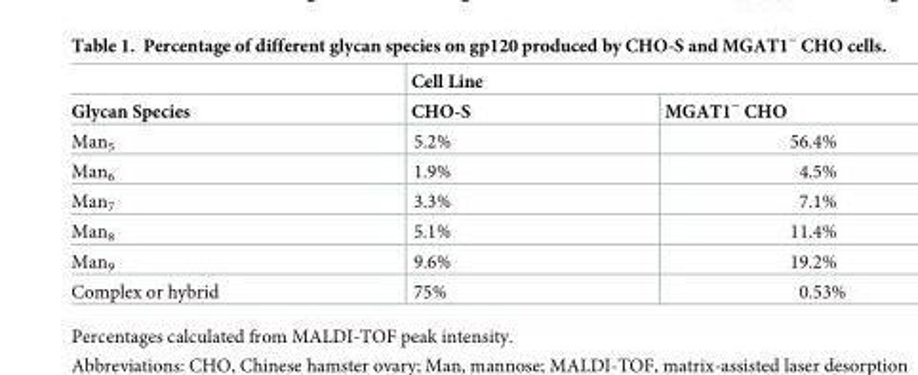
<table><thead><tr><td rowspan="2">Glycan Species</td><td colspan="2">Cell Line</td></tr><tr><td>CHO-S</td><td>MGAT1<sup>−</sup> CHO</td></tr></thead><tbody><tr><td>Man<sub>5</sub></td><td>5.2%</td><td>56.4%</td></tr><tr><td>Man<sub>6</sub></td><td>1.9%</td><td>4.5%</td></tr><tr><td>Man<sub>7</sub></td><td>3.3%</td><td>7.1%</td></tr><tr><td>Man<sub>8</sub></td><td>5.1%</td><td>11.4%</td></tr><tr><td>Man<sub>9</sub></td><td>9.6%</td><td>19.2%</td></tr><tr><td>Complex or hybrid</td><td>75%</td><td>0.53%</td></tr></tbody></table>